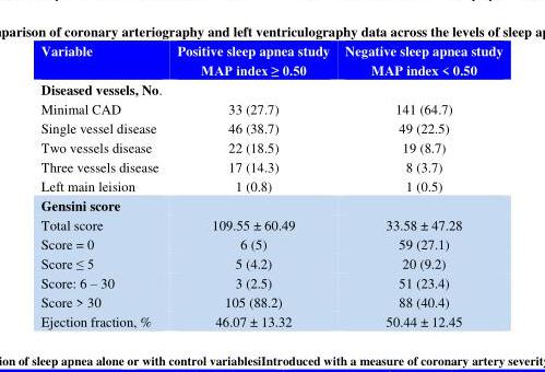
<table><thead><tr><td>Variable</td><td>Positive sleep apnea study MAP index ≥ 0.50</td><td>Negative sleep apnea study MAP index &lt; 0.50</td></tr></thead><tbody><tr><td colspan="3">Diseased vessels, No.</td></tr><tr><td>Minimal CAD</td><td>33 (27.7)</td><td>141 (64.7)</td></tr><tr><td>Single vessel disease</td><td>46 (38.7)</td><td>49 (22.5)</td></tr><tr><td>Two vessels disease</td><td>22 (18.5)</td><td>19 (8.7)</td></tr><tr><td>Three vessels disease</td><td>17 (14.3)</td><td>8 (3.7)</td></tr><tr><td>Left main leision</td><td>1 (0.8)</td><td>1 (0.5)</td></tr><tr><td colspan="3">Gensini score</td></tr><tr><td>Total score</td><td>109.55 ± 60.49</td><td>33.58 ± 47.28</td></tr><tr><td>Score = 0</td><td>6 (5)</td><td>59 (27.1)</td></tr><tr><td>Score ≤ 5</td><td>5 (4.2)</td><td>20 (9.2)</td></tr><tr><td>Score: 6 – 30</td><td>3 (2.5)</td><td>51 (23.4)</td></tr><tr><td>Score &gt; 30</td><td>105 (88.2)</td><td>88 (40.4)</td></tr><tr><td>Ejection fraction, %</td><td>46.07 ± 13.32</td><td>50.44 ± 12.45</td></tr></tbody></table>